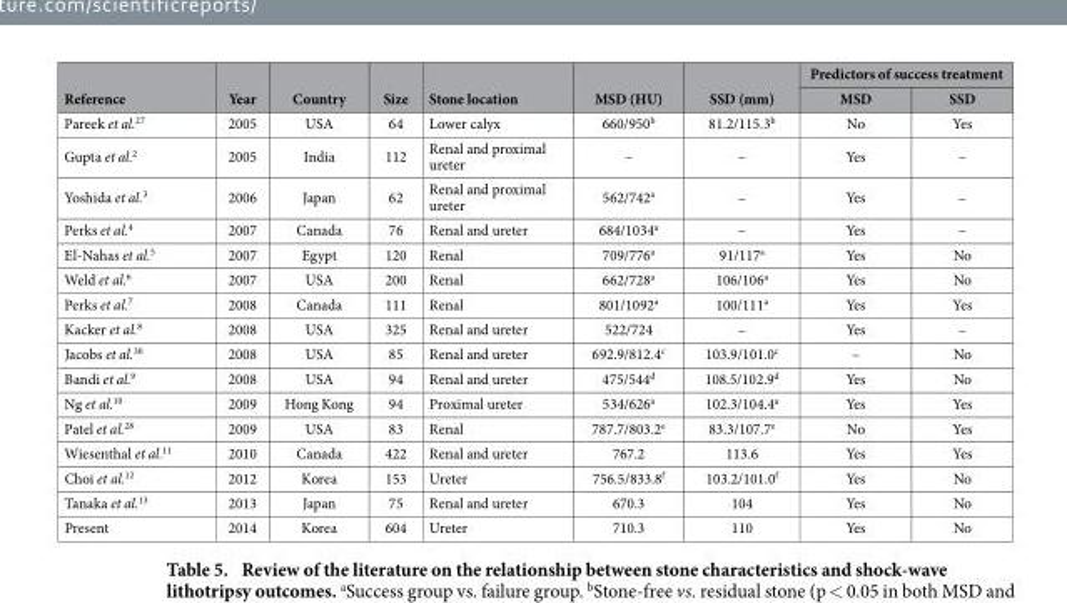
<table><thead><tr><td rowspan="2">Reference</td><td rowspan="2">Year</td><td rowspan="2">Country</td><td rowspan="2">Size</td><td rowspan="2">Stone location</td><td rowspan="2">MSD (HU)</td><td rowspan="2">SSD (mm)</td><td colspan="2">Predictors of success treatment</td></tr><tr><td>MSD</td><td>SSD</td></tr></thead><tbody><tr><td>Pareek et al.<sup>27</sup></td><td>2005</td><td>USA</td><td>64</td><td>Lower calyx</td><td>660/950<sup>b</sup></td><td>81.2/115.3<sup>b</sup></td><td>No</td><td>Yes</td></tr><tr><td>Gupta et al.<sup>2</sup></td><td>2005</td><td>India</td><td>112</td><td>Renal and proximal ureter</td><td>–</td><td>–</td><td>Yes</td><td>–</td></tr><tr><td>Yoshida et al.<sup>3</sup></td><td>2006</td><td>Japan</td><td>62</td><td>Renal and proximal ureter</td><td>562/742<sup>a</sup></td><td>–</td><td>Yes</td><td>–</td></tr><tr><td>Perks et al.<sup>4</sup></td><td>2007</td><td>Canada</td><td>76</td><td>Renal and ureter</td><td>684/1034<sup>a</sup></td><td>–</td><td>Yes</td><td>–</td></tr><tr><td>El-Nahas et al.<sup>5</sup></td><td>2007</td><td>Egypt</td><td>120</td><td>Renal</td><td>709/776<sup>a</sup></td><td>91/117<sup>a</sup></td><td>Yes</td><td>No</td></tr><tr><td>Weld et al.<sup>6</sup></td><td>2007</td><td>USA</td><td>200</td><td>Renal</td><td>662/728<sup>a</sup></td><td>106/106<sup>a</sup></td><td>Yes</td><td>No</td></tr><tr><td>Perks et al.<sup>7</sup></td><td>2008</td><td>Canada</td><td>111</td><td>Renal</td><td>801/1092<sup>a</sup></td><td>100/111<sup>a</sup></td><td>Yes</td><td>Yes</td></tr><tr><td>Kacker et al.<sup>8</sup></td><td>2008</td><td>USA</td><td>325</td><td>Renal and ureter</td><td>522/724</td><td>–</td><td>Yes</td><td>–</td></tr><tr><td>Jacobs et al.<sup>30</sup></td><td>2008</td><td>USA</td><td>85</td><td>Renal and ureter</td><td>692.9/812.4<sup>c</sup></td><td>103.9/101.0<sup>c</sup></td><td>–</td><td>No</td></tr><tr><td>Bandi et al.<sup>9</sup></td><td>2008</td><td>USA</td><td>94</td><td>Renal and ureter</td><td>475/544<sup>d</sup></td><td>108.5/102.9<sup>d</sup></td><td>Yes</td><td>No</td></tr><tr><td>Ng et al.<sup>10</sup></td><td>2009</td><td>Hong Kong</td><td>94</td><td>Proximal ureter</td><td>534/626<sup>a</sup></td><td>102.3/104.4<sup>a</sup></td><td>Yes</td><td>Yes</td></tr><tr><td>Patel et al.<sup>28</sup></td><td>2009</td><td>USA</td><td>83</td><td>Renal</td><td>787.7/803.2<sup>e</sup></td><td>83.3/107.7<sup>e</sup></td><td>No</td><td>Yes</td></tr><tr><td>Wiesenthal et al.<sup>11</sup></td><td>2010</td><td>Canada</td><td>422</td><td>Renal and ureter</td><td>767.2</td><td>113.6</td><td>Yes</td><td>Yes</td></tr><tr><td>Choi et al.<sup>12</sup></td><td>2012</td><td>Korea</td><td>153</td><td>Ureter</td><td>756.5/833.8<sup>f</sup></td><td>103.2/101.0<sup>f</sup></td><td>Yes</td><td>No</td></tr><tr><td>Tanaka et al.<sup>13</sup></td><td>2013</td><td>Japan</td><td>75</td><td>Renal and ureter</td><td>670.3</td><td>104</td><td>Yes</td><td>No</td></tr><tr><td>Present</td><td>2014</td><td>Korea</td><td>604</td><td>Ureter</td><td>710.3</td><td>110</td><td>Yes</td><td>No</td></tr></tbody></table>